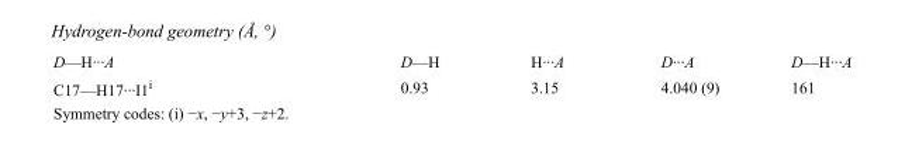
<table><tbody><tr><td>D—H···A</td><td>D—H</td><td>H···A</td><td>D···A</td><td>D—H···A</td></tr><tr><td>C17—H17···I1<sup>i</sup></td><td>0.93</td><td>3.15</td><td>4.040 (9)</td><td>161</td></tr></tbody></table>